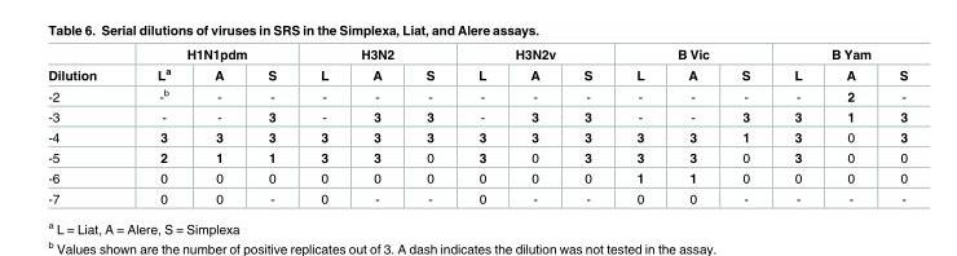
<table><thead><tr><td rowspan="2">Dilution</td><td colspan="3">H1N1pdm</td><td colspan="3">H3N2</td><td colspan="3">H3N2v</td><td colspan="3">B Vic</td><td colspan="3">B Yam</td></tr><tr><td>L<sup>a</sup></td><td>A</td><td>S</td><td>L</td><td>A</td><td>S</td><td>L</td><td>A</td><td>S</td><td>L</td><td>A</td><td>S</td><td>L</td><td>A</td><td>S</td></tr></thead><tbody><tr><td>-2</td><td>-<sup>b</sup></td><td>-</td><td>-</td><td>-</td><td>-</td><td>-</td><td>-</td><td>-</td><td>-</td><td>-</td><td>-</td><td>-</td><td>-</td><td>2</td><td>-</td></tr><tr><td>-3</td><td>-</td><td>-</td><td>3</td><td>-</td><td>3</td><td>3</td><td>-</td><td>3</td><td>3</td><td>-</td><td>-</td><td>3</td><td>3</td><td>1</td><td>3</td></tr><tr><td>-4</td><td>3</td><td>3</td><td>3</td><td>3</td><td>3</td><td>3</td><td>3</td><td>3</td><td>3</td><td>3</td><td>3</td><td>1</td><td>3</td><td>0</td><td>3</td></tr><tr><td>-5</td><td>2</td><td>1</td><td>1</td><td>3</td><td>3</td><td>0</td><td>3</td><td>0</td><td>3</td><td>3</td><td>3</td><td>0</td><td>3</td><td>0</td><td>0</td></tr><tr><td>-6</td><td>0</td><td>0</td><td>0</td><td>0</td><td>0</td><td>0</td><td>0</td><td>0</td><td>0</td><td>1</td><td>1</td><td>0</td><td>0</td><td>0</td><td>0</td></tr><tr><td>-7</td><td>0</td><td>0</td><td>-</td><td>0</td><td>-</td><td>-</td><td>0</td><td>-</td><td>-</td><td>0</td><td>0</td><td>-</td><td>-</td><td>-</td><td>-</td></tr></tbody></table>